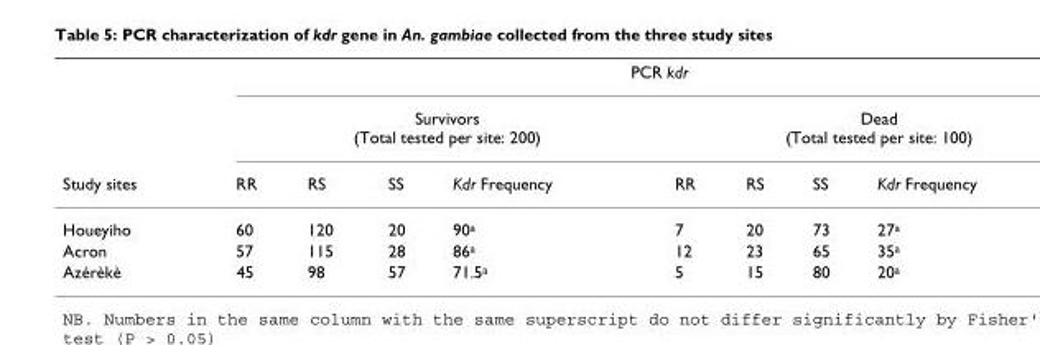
<table><thead><tr><td rowspan="3">Study sites</td><td colspan="8">PCR kdr</td></tr><tr><td colspan="4">Survivors (Total tested per site: 200)</td><td colspan="4">Dead (Total tested per site: 100)</td></tr><tr><td>RR</td><td>RS</td><td>SS</td><td>Kdr Frequency</td><td>RR</td><td>RS</td><td>SS</td><td>Kdr Frequency</td></tr></thead><tbody><tr><td>Houeyiho</td><td>60</td><td>120</td><td>20</td><td>90<sup>a</sup></td><td>7</td><td>20</td><td>73</td><td>27<sup>a</sup></td></tr><tr><td>Acron</td><td>57</td><td>115</td><td>28</td><td>86<sup>a</sup></td><td>12</td><td>23</td><td>65</td><td>35<sup>a</sup></td></tr><tr><td>Azérèkè</td><td>45</td><td>98</td><td>57</td><td>71.5<sup>a</sup></td><td>5</td><td>15</td><td>80</td><td>20<sup>a</sup></td></tr></tbody></table>